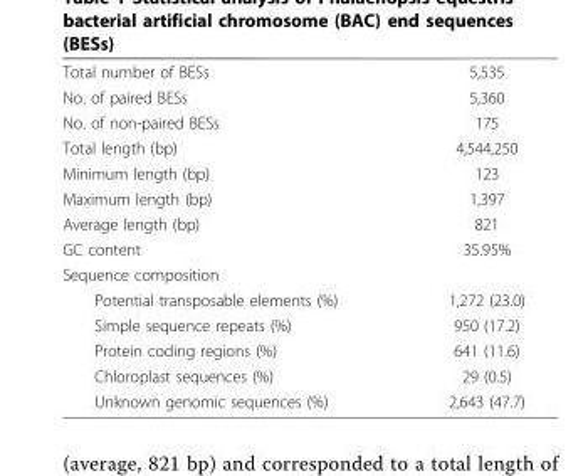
<table><tbody><tr><td>Total number of BESs</td><td>5,535</td></tr><tr><td>No. of paired BESs</td><td>5,360</td></tr><tr><td>No. of non-paired BESs</td><td>175</td></tr><tr><td>Total length (bp)</td><td>4,544,250</td></tr><tr><td>Minimum length (bp)</td><td>123</td></tr><tr><td>Maximum length (bp)</td><td>1,397</td></tr><tr><td>Average length (bp)</td><td>821</td></tr><tr><td>GC content</td><td>35.95%</td></tr><tr><td colspan="2">Sequence composition</td></tr><tr><td>Potential transposable elements (%)</td><td>1,272 (23.0)</td></tr><tr><td>Simple sequence repeats (%)</td><td>950 (17.2)</td></tr><tr><td>Protein coding regions (%)</td><td>641 (11.6)</td></tr><tr><td>Chloroplast sequences (%)</td><td>29 (0.5)</td></tr><tr><td>Unknown genomic sequences (%)</td><td>2,643 (47.7)</td></tr></tbody></table>